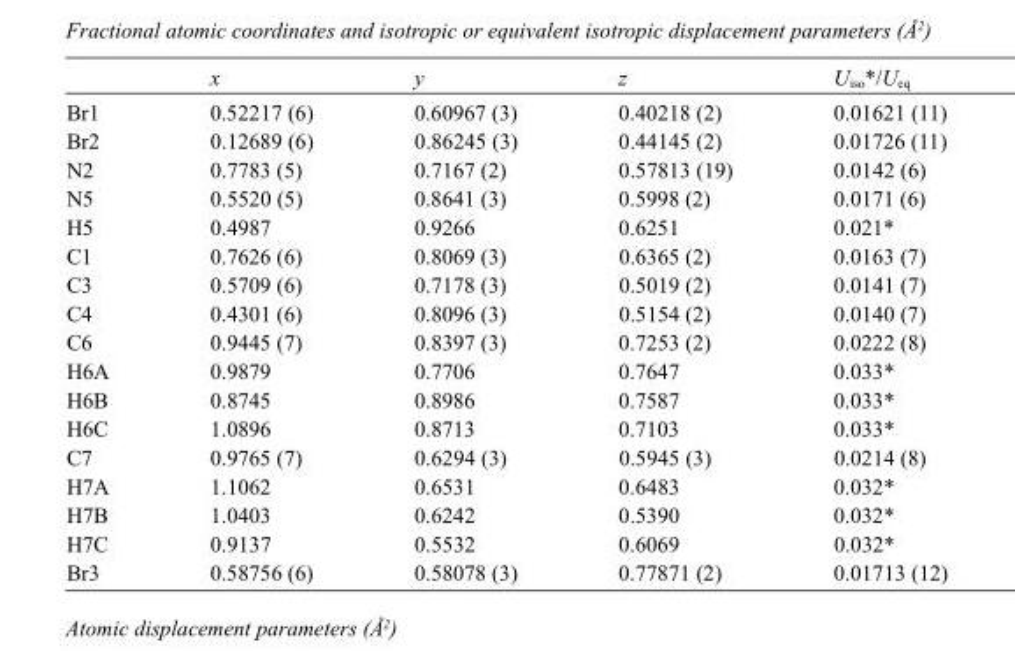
<table><thead><tr><td></td><td>x</td><td>y</td><td>z</td><td>U<sub>iso</sub>*/U<sub>eq</sub></td></tr></thead><tbody><tr><td>Br1</td><td>0.52217 (6)</td><td>0.60967 (3)</td><td>0.40218 (2)</td><td>0.01621 (11)</td></tr><tr><td>Br2</td><td>0.12689 (6)</td><td>0.86245 (3)</td><td>0.44145 (2)</td><td>0.01726 (11)</td></tr><tr><td>N2</td><td>0.7783 (5)</td><td>0.7167 (2)</td><td>0.57813 (19)</td><td>0.0142 (6)</td></tr><tr><td>N5</td><td>0.5520 (5)</td><td>0.8641 (3)</td><td>0.5998 (2)</td><td>0.0171 (6)</td></tr><tr><td>H5</td><td>0.4987</td><td>0.9266</td><td>0.6251</td><td>0.021*</td></tr><tr><td>C1</td><td>0.7626 (6)</td><td>0.8069 (3)</td><td>0.6365 (2)</td><td>0.0163 (7)</td></tr><tr><td>C3</td><td>0.5709 (6)</td><td>0.7178 (3)</td><td>0.5019 (2)</td><td>0.0141 (7)</td></tr><tr><td>C4</td><td>0.4301 (6)</td><td>0.8096 (3)</td><td>0.5154 (2)</td><td>0.0140 (7)</td></tr><tr><td>C6</td><td>0.9445 (7)</td><td>0.8397 (3)</td><td>0.7253 (2)</td><td>0.0222 (8)</td></tr><tr><td>H6A</td><td>0.9879</td><td>0.7706</td><td>0.7647</td><td>0.033*</td></tr><tr><td>H6B</td><td>0.8745</td><td>0.8986</td><td>0.7587</td><td>0.033*</td></tr><tr><td>H6C</td><td>1.0896</td><td>0.8713</td><td>0.7103</td><td>0.033*</td></tr><tr><td>C7</td><td>0.9765 (7)</td><td>0.6294 (3)</td><td>0.5945 (3)</td><td>0.0214 (8)</td></tr><tr><td>H7A</td><td>1.1062</td><td>0.6531</td><td>0.6483</td><td>0.032*</td></tr><tr><td>H7B</td><td>1.0403</td><td>0.6242</td><td>0.5390</td><td>0.032*</td></tr><tr><td>H7C</td><td>0.9137</td><td>0.5532</td><td>0.6069</td><td>0.032*</td></tr><tr><td>Br3</td><td>0.58756 (6)</td><td>0.58078 (3)</td><td>0.77871 (2)</td><td>0.01713 (12)</td></tr></tbody></table>